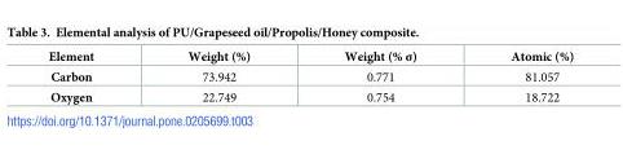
<table><thead><tr><td>Element</td><td>Weight (%)</td><td>Weight (% σ)</td><td>Atomic (%)</td></tr></thead><tbody><tr><td>Carbon</td><td>73.942</td><td>0.771</td><td>81.057</td></tr><tr><td>Oxygen</td><td>22.749</td><td>0.754</td><td>18.722</td></tr></tbody></table>